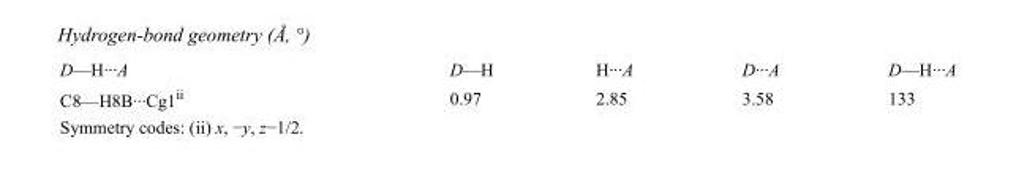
<table><tbody><tr><td>D—H···A</td><td>D—H</td><td>H···A</td><td>D···A</td><td>D—H···A</td></tr><tr><td>C8—H8B···Cg1<sup>ii</sup></td><td>0.97</td><td>2.85</td><td>3.58</td><td>133</td></tr></tbody></table>